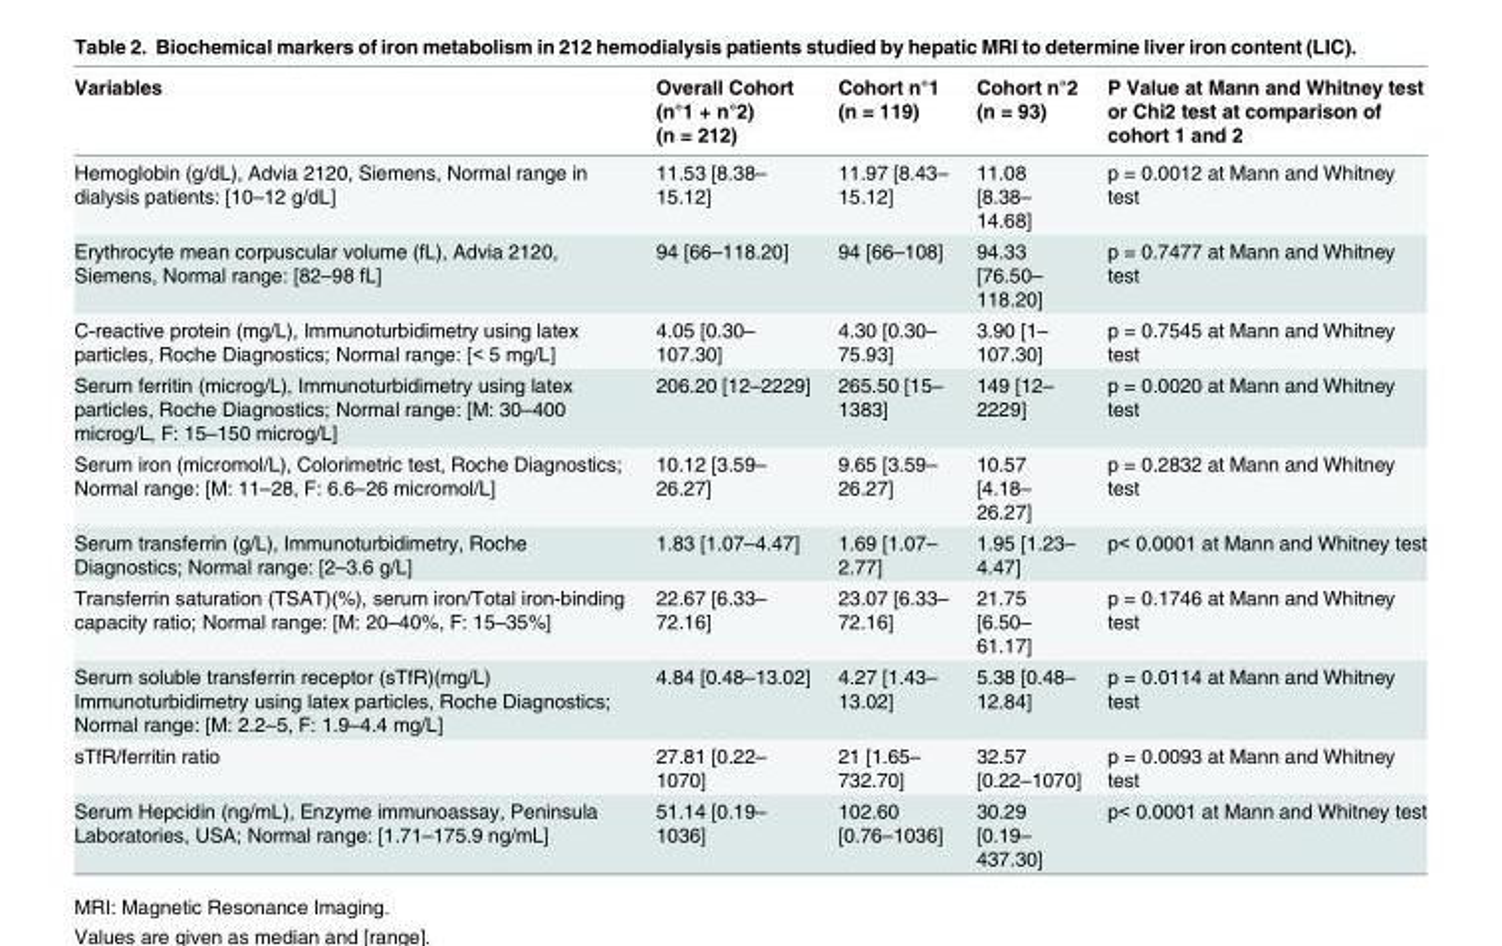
<table><thead><tr><td>Variables</td><td>Overall Cohort (n°1 + n°2) (n = 212)</td><td>Cohort n°1 (n = 119)</td><td>Cohort n°2 (n = 93)</td><td>P Value at Mann and Whitney test or Chi2 test at comparison of cohort 1 and 2</td></tr></thead><tbody><tr><td>Hemoglobin (g/dL), Advia 2120, Siemens, Normal range in dialysis patients: [10–12 g/dL]</td><td>11.53 [8.38– 15.12]</td><td>11.97 [8.43– 15.12]</td><td>11.08 [8.38– 14.68]</td><td>p = 0.0012 at Mann and Whitney test</td></tr><tr><td>Erythrocyte mean corpuscular volume (fL), Advia 2120, Siemens, Normal range: [82–98 fL]</td><td>94 [66–118.20]</td><td>94 [66–108]</td><td>94.33 [76.50– 118.20]</td><td>p = 0.7477 at Mann and Whitney test</td></tr><tr><td>C-reactive protein (mg/L), Immunoturbidimetry using latex particles, Roche Diagnostics; Normal range: [&lt; 5 mg/L]</td><td>4.05 [0.30– 107.30]</td><td>4.30 [0.30– 75.93]</td><td>3.90 [1– 107.30]</td><td>p = 0.7545 at Mann and Whitney test</td></tr><tr><td>Serum ferritin (microg/L), Immunoturbidimetry using latex particles, Roche Diagnostics; Normal range: [M: 30–400 microg/L, F: 15–150 microg/L]</td><td>206.20 [12–2229]</td><td>265.50 [15– 1383]</td><td>149 [12– 2229]</td><td>p = 0.0020 at Mann and Whitney test</td></tr><tr><td>Serum iron (micromol/L), Colorimetric test, Roche Diagnostics; Normal range: [M: 11–28, F: 6.6–26 micromol/L]</td><td>10.12 [3.59– 26.27]</td><td>9.65 [3.59– 26.27]</td><td>10.57 [4.18– 26.27]</td><td>p = 0.2832 at Mann and Whitney test</td></tr><tr><td>Serum transferrin (g/L), Immunoturbidimetry, Roche Diagnostics; Normal range: [2–3.6 g/L]</td><td>1.83 [1.07–4.47]</td><td>1.69 [1.07– 2.77]</td><td>1.95 [1.23– 4.47]</td><td>p&lt; 0.0001 at Mann and Whitney test</td></tr><tr><td>Transferrin saturation (TSAT)(%), serum iron/Total iron-binding capacity ratio; Normal range: [M: 20–40%, F: 15–35%]</td><td>22.67 [6.33– 72.16]</td><td>23.07 [6.33– 72.16]</td><td>21.75 [6.50– 61.17]</td><td>p = 0.1746 at Mann and Whitney test</td></tr><tr><td>Serum soluble transferrin receptor (sTfR)(mg/L) Immunoturbidimetry using latex particles, Roche Diagnostics; Normal range: [M: 2.2–5, F: 1.9–4.4 mg/L]</td><td>4.84 [0.48–13.02]</td><td>4.27 [1.43– 13.02]</td><td>5.38 [0.48– 12.84]</td><td>p = 0.0114 at Mann and Whitney test</td></tr><tr><td>sTfR/ferritin ratio</td><td>27.81 [0.22– 1070]</td><td>21 [1.65– 732.70]</td><td>32.57 [0.22–1070]</td><td>p = 0.0093 at Mann and Whitney test</td></tr><tr><td>Serum Hepcidin (ng/mL), Enzyme immunoassay, Peninsula Laboratories, USA; Normal range: [1.71–175.9 ng/mL]</td><td>51.14 [0.19– 1036]</td><td>102.60 [0.76–1036]</td><td>30.29 [0.19– 437.30]</td><td>p&lt; 0.0001 at Mann and Whitney test</td></tr></tbody></table>